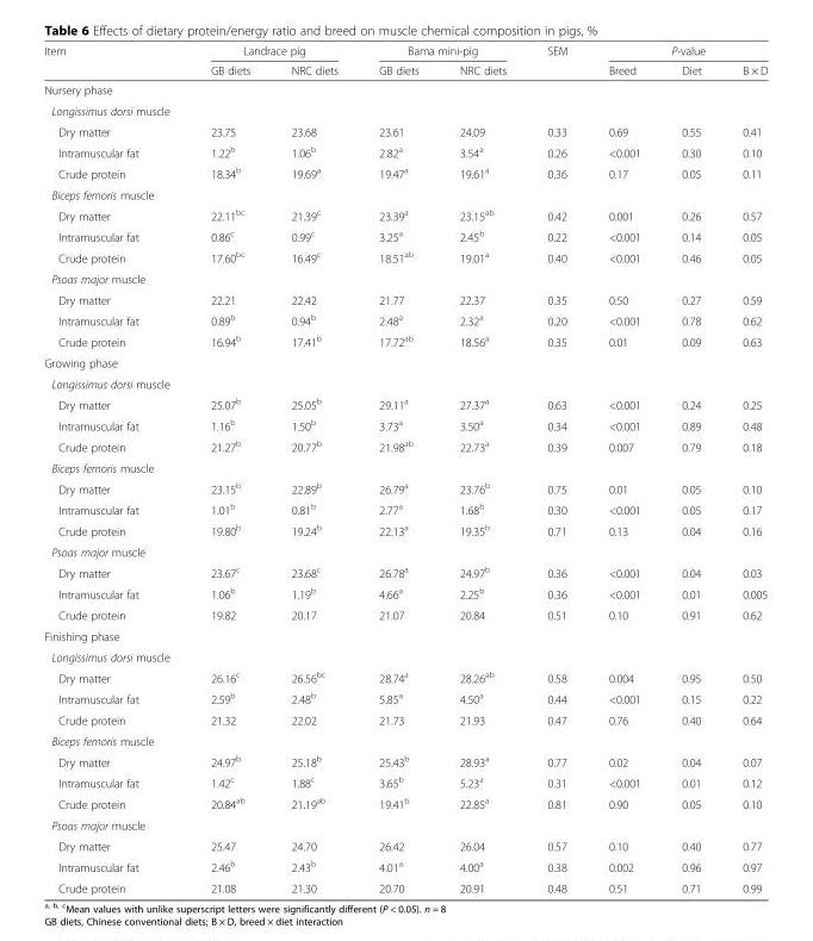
<table><thead><tr><td rowspan="2">Item</td><td colspan="2">Landrace pig</td><td colspan="2">Bama mini-pig</td><td rowspan="2">SEM</td><td colspan="3">P-value</td></tr><tr><td>GB diets</td><td>NRC diets</td><td>GB diets</td><td>NRC diets</td><td>Breed</td><td>Diet</td><td>B × D</td></tr></thead><tbody><tr><td colspan="9">Nursery phase</td></tr><tr><td colspan="9">Longissimus dorsi muscle</td></tr><tr><td>Dry matter</td><td>23.75</td><td>23.68</td><td>23.61</td><td>24.09</td><td>0.33</td><td>0.69</td><td>0.55</td><td>0.41</td></tr><tr><td>Intramuscular fat</td><td>1.22<sup>b</sup></td><td>1.06<sup>b</sup></td><td>2.82<sup>a</sup></td><td>3.54<sup>a</sup></td><td>0.26</td><td>&lt;0.001</td><td>0.30</td><td>0.10</td></tr><tr><td>Crude protein</td><td>18.34<sup>b</sup></td><td>19.69<sup>a</sup></td><td>19.47<sup>a</sup></td><td>19.61<sup>a</sup></td><td>0.36</td><td>0.17</td><td>0.05</td><td>0.11</td></tr><tr><td colspan="9">Biceps femoris muscle</td></tr><tr><td>Dry matter</td><td>22.11<sup>bc</sup></td><td>21.39<sup>c</sup></td><td>23.39<sup>a</sup></td><td>23.15<sup>ab</sup></td><td>0.42</td><td>0.001</td><td>0.26</td><td>0.57</td></tr><tr><td>Intramuscular fat</td><td>0.86<sup>c</sup></td><td>0.99<sup>c</sup></td><td>3.25<sup>a</sup></td><td>2.45<sup>b</sup></td><td>0.22</td><td>&lt;0.001</td><td>0.14</td><td>0.05</td></tr><tr><td>Crude protein</td><td>17.60<sup>bc</sup></td><td>16.49<sup>c</sup></td><td>18.51<sup>ab</sup></td><td>19.01<sup>a</sup></td><td>0.40</td><td>&lt;0.001</td><td>0.46</td><td>0.05</td></tr><tr><td colspan="9">Psoas major muscle</td></tr><tr><td>Dry matter</td><td>22.21</td><td>22.42</td><td>21.77</td><td>22.37</td><td>0.35</td><td>0.50</td><td>0.27</td><td>0.59</td></tr><tr><td>Intramuscular fat</td><td>0.89<sup>b</sup></td><td>0.94<sup>b</sup></td><td>2.48<sup>a</sup></td><td>2.32<sup>a</sup></td><td>0.20</td><td>&lt;0.001</td><td>0.78</td><td>0.62</td></tr><tr><td>Crude protein</td><td>16.94<sup>b</sup></td><td>17.41<sup>b</sup></td><td>17.72<sup>ab</sup></td><td>18.56<sup>a</sup></td><td>0.35</td><td>0.01</td><td>0.09</td><td>0.63</td></tr><tr><td colspan="9">Growing phase</td></tr><tr><td colspan="9">Longissimus dorsi muscle</td></tr><tr><td>Dry matter</td><td>25.07<sup>b</sup></td><td>25.05<sup>b</sup></td><td>29.11<sup>a</sup></td><td>27.37<sup>a</sup></td><td>0.63</td><td>&lt;0.001</td><td>0.24</td><td>0.25</td></tr><tr><td>Intramuscular fat</td><td>1.16<sup>b</sup></td><td>1.50<sup>b</sup></td><td>3.73<sup>a</sup></td><td>3.50<sup>a</sup></td><td>0.34</td><td>&lt;0.001</td><td>0.89</td><td>0.48</td></tr><tr><td>Crude protein</td><td>21.27<sup>b</sup></td><td>20.77<sup>b</sup></td><td>21.98<sup>ab</sup></td><td>22.73<sup>a</sup></td><td>0.39</td><td>0.007</td><td>0.79</td><td>0.18</td></tr><tr><td colspan="9">Biceps femoris muscle</td></tr><tr><td>Dry matter</td><td>23.15<sup>b</sup></td><td>22.89<sup>b</sup></td><td>26.79<sup>a</sup></td><td>23.76<sup>b</sup></td><td>0.75</td><td>0.01</td><td>0.05</td><td>0.10</td></tr><tr><td>Intramuscular fat</td><td>1.01<sup>b</sup></td><td>0.81<sup>b</sup></td><td>2.77<sup>a</sup></td><td>1.68<sup>b</sup></td><td>0.30</td><td>&lt;0.001</td><td>0.05</td><td>0.17</td></tr><tr><td>Crude protein</td><td>19.80<sup>b</sup></td><td>19.24<sup>b</sup></td><td>22.13<sup>a</sup></td><td>19.35<sup>b</sup></td><td>0.71</td><td>0.13</td><td>0.04</td><td>0.16</td></tr><tr><td colspan="9">Psoas major muscle</td></tr><tr><td>Dry matter</td><td>23.67<sup>c</sup></td><td>23.68<sup>c</sup></td><td>26.78<sup>a</sup></td><td>24.97<sup>b</sup></td><td>0.36</td><td>&lt;0.001</td><td>0.04</td><td>0.03</td></tr><tr><td>Intramuscular fat</td><td>1.06<sup>b</sup></td><td>1.19<sup>b</sup></td><td>4.66<sup>a</sup></td><td>2.25<sup>b</sup></td><td>0.36</td><td>&lt;0.001</td><td>0.01</td><td>0.005</td></tr><tr><td>Crude protein</td><td>19.82</td><td>20.17</td><td>21.07</td><td>20.84</td><td>0.51</td><td>0.10</td><td>0.91</td><td>0.62</td></tr><tr><td colspan="9">Finishing phase</td></tr><tr><td colspan="9">Longissimus dorsi muscle</td></tr><tr><td>Dry matter</td><td>26.16<sup>c</sup></td><td>26.56<sup>bc</sup></td><td>28.74<sup>a</sup></td><td>28.26<sup>ab</sup></td><td>0.58</td><td>0.004</td><td>0.95</td><td>0.50</td></tr><tr><td>Intramuscular fat</td><td>2.59<sup>b</sup></td><td>2.48<sup>b</sup></td><td>5.85<sup>a</sup></td><td>4.50<sup>a</sup></td><td>0.44</td><td>&lt;0.001</td><td>0.15</td><td>0.22</td></tr><tr><td>Crude protein</td><td>21.32</td><td>22.02</td><td>21.73</td><td>21.93</td><td>0.47</td><td>0.76</td><td>0.40</td><td>0.64</td></tr><tr><td colspan="9">Biceps femoris muscle</td></tr><tr><td>Dry matter</td><td>24.97<sup>b</sup></td><td>25.18<sup>b</sup></td><td>25.43<sup>b</sup></td><td>28.93<sup>a</sup></td><td>0.77</td><td>0.02</td><td>0.04</td><td>0.07</td></tr><tr><td>Intramuscular fat</td><td>1.42<sup>c</sup></td><td>1.88<sup>c</sup></td><td>3.65<sup>b</sup></td><td>5.23<sup>a</sup></td><td>0.31</td><td>&lt;0.001</td><td>0.01</td><td>0.12</td></tr><tr><td>Crude protein</td><td>20.84<sup>ab</sup></td><td>21.19<sup>ab</sup></td><td>19.41<sup>b</sup></td><td>22.85<sup>a</sup></td><td>0.81</td><td>0.90</td><td>0.05</td><td>0.10</td></tr><tr><td colspan="9">Psoas major muscle</td></tr><tr><td>Dry matter</td><td>25.47</td><td>24.70</td><td>26.42</td><td>26.04</td><td>0.57</td><td>0.10</td><td>0.40</td><td>0.77</td></tr><tr><td>Intramuscular fat</td><td>2.46<sup>b</sup></td><td>2.43<sup>b</sup></td><td>4.01<sup>a</sup></td><td>4.00<sup>a</sup></td><td>0.38</td><td>0.002</td><td>0.96</td><td>0.97</td></tr><tr><td>Crude protein</td><td>21.08</td><td>21.30</td><td>20.70</td><td>20.91</td><td>0.48</td><td>0.51</td><td>0.71</td><td>0.99</td></tr></tbody></table>